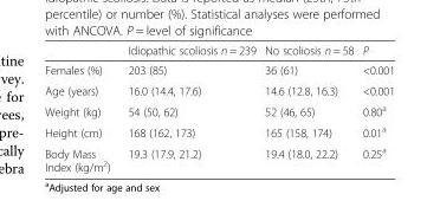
<table><thead><tr><td></td><td>Idiopathic scoliosis n = 239</td><td>No scoliosis n = 58</td><td>P</td></tr></thead><tbody><tr><td>Females (%)</td><td>203 (85)</td><td>36 (61)</td><td>&lt;0.001</td></tr><tr><td>Age (years)</td><td>16.0 (14.4, 17.6)</td><td>14.6 (12.8, 16.3)</td><td>&lt;0.001</td></tr><tr><td>Weight (kg)</td><td>54 (50, 62)</td><td>52 (46, 65)</td><td>0.80<sup>a</sup></td></tr><tr><td>Height (cm)</td><td>168 (162, 173)</td><td>165 (158, 174)</td><td>0.01<sup>a</sup></td></tr><tr><td>Body Mass Index (kg/m<sup>2</sup>)</td><td>19.3 (17.9, 21.2)</td><td>19.4 (18.0, 22.2)</td><td>0.25<sup>a</sup></td></tr></tbody></table>